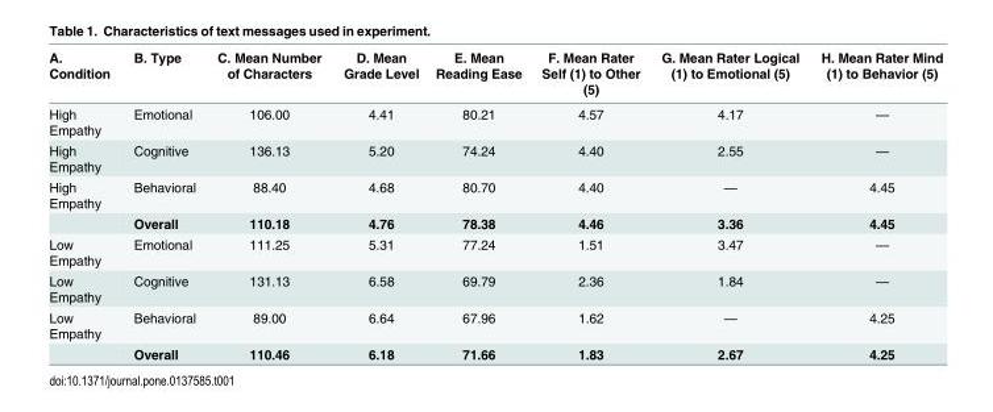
<table><thead><tr><td>A. Condition</td><td>B. Type</td><td>C. Mean Number of Characters</td><td>D. Mean Grade Level</td><td>E. Mean Reading Ease</td><td>F. Mean Rater Self (1) to Other (5)</td><td>G. Mean Rater Logical (1) to Emotional (5)</td><td>H. Mean Rater Mind (1) to Behavior (5)</td></tr></thead><tbody><tr><td>High Empathy</td><td>Emotional</td><td>106.00</td><td>4.41</td><td>80.21</td><td>4.57</td><td>4.17</td><td>—</td></tr><tr><td>High Empathy</td><td>Cognitive</td><td>136.13</td><td>5.20</td><td>74.24</td><td>4.40</td><td>2.55</td><td>—</td></tr><tr><td rowspan="2">High Empathy</td><td>Behavioral</td><td>88.40</td><td>4.68</td><td>80.70</td><td>4.40</td><td>—</td><td>4.45</td></tr><tr><td>Overall</td><td>110.18</td><td>4.76</td><td>78.38</td><td>4.46</td><td>3.36</td><td>4.45</td></tr><tr><td>Low Empathy</td><td>Emotional</td><td>111.25</td><td>5.31</td><td>77.24</td><td>1.51</td><td>3.47</td><td>—</td></tr><tr><td>Low Empathy</td><td>Cognitive</td><td>131.13</td><td>6.58</td><td>69.79</td><td>2.36</td><td>1.84</td><td>—</td></tr><tr><td rowspan="2">Low Empathy</td><td>Behavioral</td><td>89.00</td><td>6.64</td><td>67.96</td><td>1.62</td><td>—</td><td>4.25</td></tr><tr><td>Overall</td><td>110.46</td><td>6.18</td><td>71.66</td><td>1.83</td><td>2.67</td><td>4.25</td></tr></tbody></table>